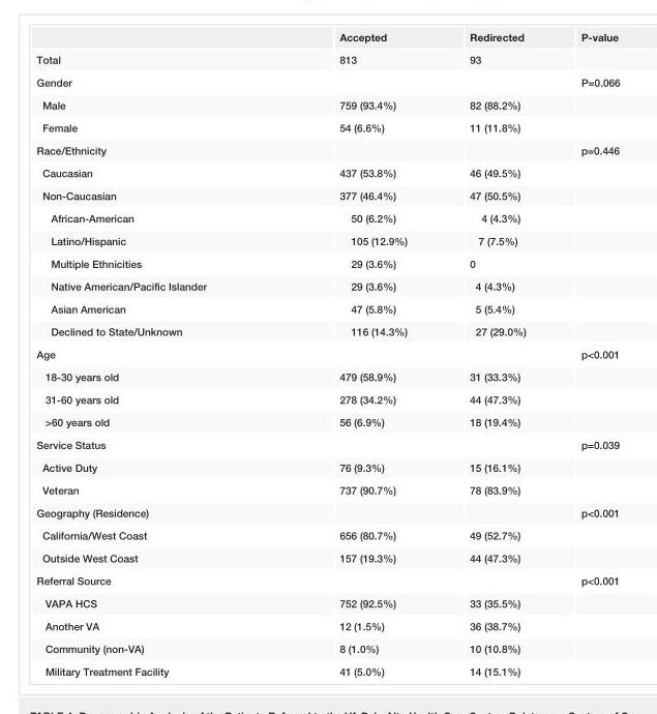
<table><thead><tr><td></td><td>Accepted</td><td>Redirected</td><td>P-value</td></tr></thead><tbody><tr><td>Total</td><td>813</td><td>93</td><td></td></tr><tr><td>Gender</td><td></td><td></td><td>P=0.066</td></tr><tr><td>Male</td><td>759 (93.4%)</td><td>82 (88.2%)</td><td></td></tr><tr><td>Female</td><td>54 (6.6%)</td><td>11 (11.8%)</td><td></td></tr><tr><td>Race/Ethnicity</td><td></td><td></td><td>p=0.446</td></tr><tr><td>Caucasian</td><td>437 (53.8%)</td><td>46 (49.5%)</td><td></td></tr><tr><td>Non-Caucasian</td><td>377 (46.4%)</td><td>47 (50.5%)</td><td></td></tr><tr><td>African-American</td><td>50 (6.2%)</td><td>4 (4.3%)</td><td></td></tr><tr><td>Latino/Hispanic</td><td>105 (12.9%)</td><td>7 (7.5%)</td><td></td></tr><tr><td>Multiple Ethnicities</td><td>29 (3.6%)</td><td>0</td><td></td></tr><tr><td>Native American/Pacific Islander</td><td>29 (3.6%)</td><td>4 (4.3%)</td><td></td></tr><tr><td>Asian American</td><td>47 (5.8%)</td><td>5 (5.4%)</td><td></td></tr><tr><td>Declined to State/Unknown</td><td>116 (14.3%)</td><td>27 (29.0%)</td><td></td></tr><tr><td>Age</td><td></td><td></td><td>p&lt;0.001</td></tr><tr><td>18-30 years old</td><td>479 (58.9%)</td><td>31 (33.3%)</td><td></td></tr><tr><td>31-60 years old</td><td>278 (34.2%)</td><td>44 (47.3%)</td><td></td></tr><tr><td>&gt;60 years old</td><td>56 (6.9%)</td><td>18 (19.4%)</td><td></td></tr><tr><td>Service Status</td><td></td><td></td><td>p=0.039</td></tr><tr><td>Active Duty</td><td>76 (9.3%)</td><td>15 (16.1%)</td><td></td></tr><tr><td>Veteran</td><td>737 (90.7%)</td><td>78 (83.9%)</td><td></td></tr><tr><td>Geography (Residence)</td><td></td><td></td><td>p&lt;0.001</td></tr><tr><td>California/West Coast</td><td>656 (80.7%)</td><td>49 (52.7%)</td><td></td></tr><tr><td>Outside West Coast</td><td>157 (19.3%)</td><td>44 (47.3%)</td><td></td></tr><tr><td>Referral Source</td><td></td><td></td><td>p&lt;0.001</td></tr><tr><td>VAPA HCS</td><td>752 (92.5%)</td><td>33 (35.5%)</td><td></td></tr><tr><td>Another VA</td><td>12 (1.5%)</td><td>36 (38.7%)</td><td></td></tr><tr><td>Community (non-VA)</td><td>8 (1.0%)</td><td>10 (10.8%)</td><td></td></tr><tr><td>Military Treatment Facility</td><td>41 (5.0%)</td><td>14 (15.1%)</td><td></td></tr></tbody></table>